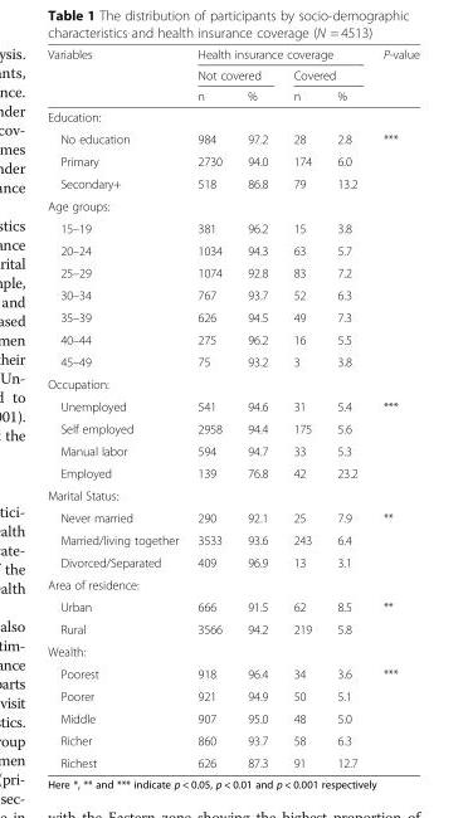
<table><thead><tr><td rowspan="3">Variables</td><td colspan="4">Health insurance coverage</td><td rowspan="3">P-value</td></tr><tr><td colspan="2">Not covered</td><td colspan="2">Covered</td></tr><tr><td>n</td><td>%</td><td>n</td><td>%</td></tr></thead><tbody><tr><td colspan="6">Education:</td></tr><tr><td>No education</td><td>984</td><td>97.2</td><td>28</td><td>2.8</td><td rowspan="3">***</td></tr><tr><td>Primary</td><td>2730</td><td>94.0</td><td>174</td><td>6.0</td></tr><tr><td>Secondary+</td><td>518</td><td>86.8</td><td>79</td><td>13.2</td></tr><tr><td colspan="6">Age groups:</td></tr><tr><td>15–19</td><td>381</td><td>96.2</td><td>15</td><td>3.8</td><td rowspan="7"></td></tr><tr><td>20–24</td><td>1034</td><td>94.3</td><td>63</td><td>5.7</td></tr><tr><td>25–29</td><td>1074</td><td>92.8</td><td>83</td><td>7.2</td></tr><tr><td>30–34</td><td>767</td><td>93.7</td><td>52</td><td>6.3</td></tr><tr><td>35–39</td><td>626</td><td>94.5</td><td>49</td><td>7.3</td></tr><tr><td>40–44</td><td>275</td><td>96.2</td><td>16</td><td>5.5</td></tr><tr><td>45–49</td><td>75</td><td>93.2</td><td>3</td><td>3.8</td></tr><tr><td colspan="6">Occupation:</td></tr><tr><td>Unemployed</td><td>541</td><td>94.6</td><td>31</td><td>5.4</td><td rowspan="4">***</td></tr><tr><td>Self employed</td><td>2958</td><td>94.4</td><td>175</td><td>5.6</td></tr><tr><td>Manual labor</td><td>594</td><td>94.7</td><td>33</td><td>5.3</td></tr><tr><td>Employed</td><td>139</td><td>76.8</td><td>42</td><td>23.2</td></tr><tr><td colspan="6">Marital Status:</td></tr><tr><td>Never married</td><td>290</td><td>92.1</td><td>25</td><td>7.9</td><td rowspan="3">**</td></tr><tr><td>Married/living together</td><td>3533</td><td>93.6</td><td>243</td><td>6.4</td></tr><tr><td>Divorced/Separated</td><td>409</td><td>96.9</td><td>13</td><td>3.1</td></tr><tr><td colspan="6">Area of residence:</td></tr><tr><td>Urban</td><td>666</td><td>91.5</td><td>62</td><td>8.5</td><td rowspan="2">**</td></tr><tr><td>Rural</td><td>3566</td><td>94.2</td><td>219</td><td>5.8</td></tr><tr><td colspan="6">Wealth:</td></tr><tr><td>Poorest</td><td>918</td><td>96.4</td><td>34</td><td>3.6</td><td rowspan="5">***</td></tr><tr><td>Poorer</td><td>921</td><td>94.9</td><td>50</td><td>5.1</td></tr><tr><td>Middle</td><td>907</td><td>95.0</td><td>48</td><td>5.0</td></tr><tr><td>Richer</td><td>860</td><td>93.7</td><td>58</td><td>6.3</td></tr><tr><td>Richest</td><td>626</td><td>87.3</td><td>91</td><td>12.7</td></tr></tbody></table>